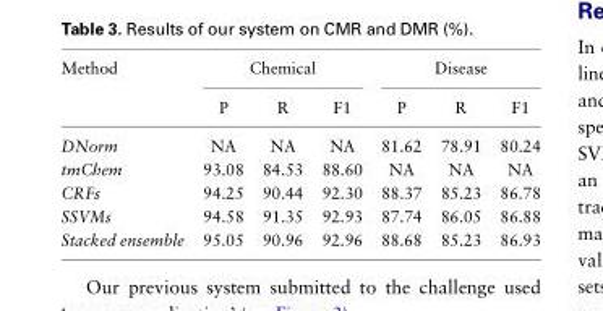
<table><thead><tr><td rowspan="2">Method</td><td colspan="3">Chemical</td><td colspan="3">Disease</td></tr><tr><td>P</td><td>R</td><td>F1</td><td>P</td><td>R</td><td>F1</td></tr></thead><tbody><tr><td>DNorm</td><td>NA</td><td>NA</td><td>NA</td><td>81.62</td><td>78.91</td><td>80.24</td></tr><tr><td>tmChem</td><td>93.08</td><td>84.53</td><td>88.60</td><td>NA</td><td>NA</td><td>NA</td></tr><tr><td>CRFs</td><td>94.25</td><td>90.44</td><td>92.30</td><td>88.37</td><td>85.23</td><td>86.78</td></tr><tr><td>SSVMs</td><td>94.58</td><td>91.35</td><td>92.93</td><td>87.74</td><td>86.05</td><td>86.88</td></tr><tr><td>Stacked ensemble</td><td>95.05</td><td>90.96</td><td>92.96</td><td>88.68</td><td>85.23</td><td>86.93</td></tr></tbody></table>